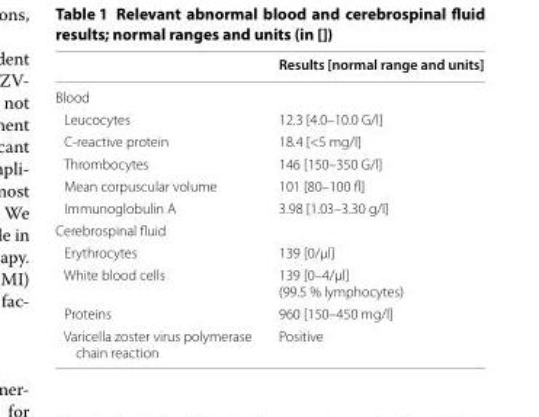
<table><thead><tr><td></td><td>Results [normal range and units]</td></tr></thead><tbody><tr><td colspan="2">Blood</td></tr><tr><td>Leucocytes</td><td>12.3 [4.0–10.0 G/l]</td></tr><tr><td>C‑reactive protein</td><td>18.4 [&lt;5 mg/l]</td></tr><tr><td>Thrombocytes</td><td>146 [150–350 G/l]</td></tr><tr><td>Mean corpuscular volume</td><td>101 [80–100 fl]</td></tr><tr><td>Immunoglobulin A</td><td>3.98 [1.03–3.30 g/l]</td></tr><tr><td colspan="2">Cerebrospinal fluid</td></tr><tr><td>Erythrocytes</td><td>139 [0/μl]</td></tr><tr><td>White blood cells</td><td>139 [0–4/μl] (99.5 % lymphocytes)</td></tr><tr><td>Proteins</td><td>960 [150–450 mg/l]</td></tr><tr><td>Varicella zoster virus polymerase chain reaction</td><td>Positive</td></tr></tbody></table>